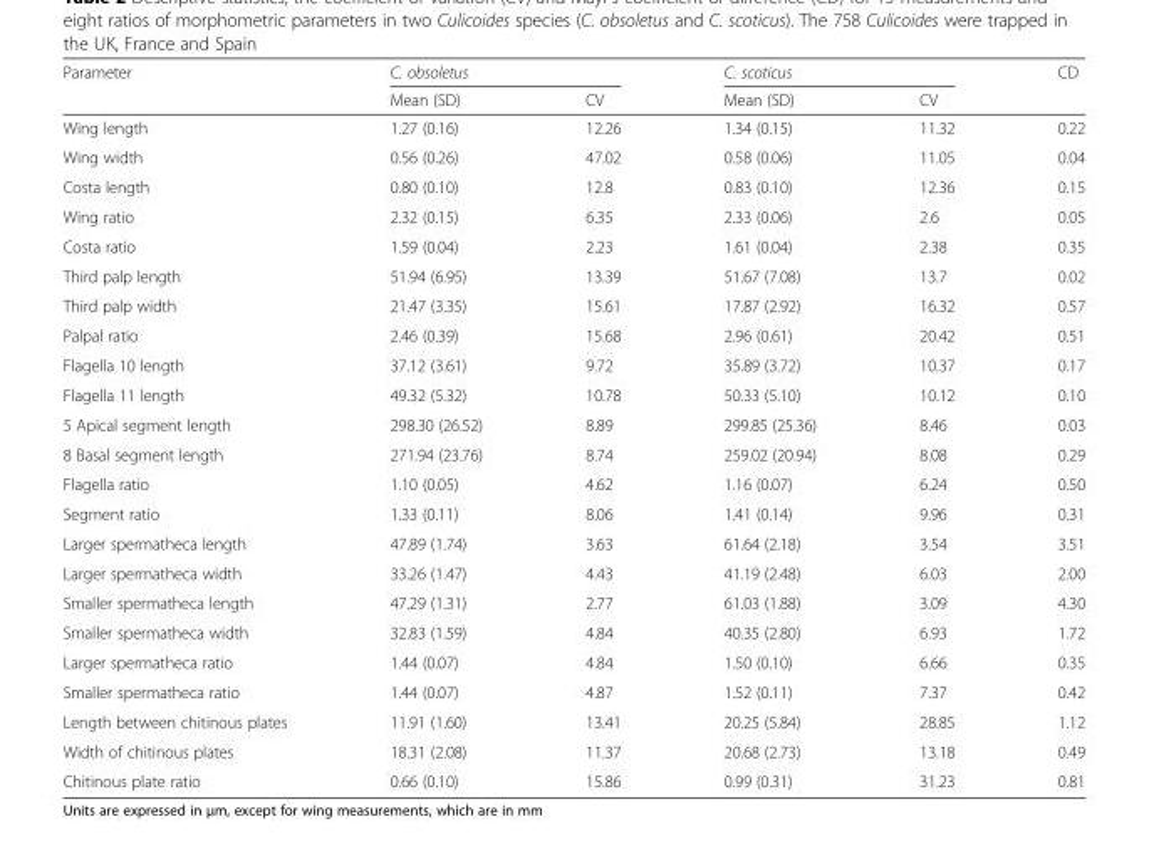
<table><thead><tr><td rowspan="2">Parameter</td><td colspan="2">C. obsoletus</td><td colspan="2">C. scoticus</td><td rowspan="2">CD</td></tr><tr><td>Mean (SD)</td><td>CV</td><td>Mean (SD)</td><td>CV</td></tr></thead><tbody><tr><td>Wing length</td><td>1.27 (0.16)</td><td>12.26</td><td>1.34 (0.15)</td><td>11.32</td><td>0.22</td></tr><tr><td>Wing width</td><td>0.56 (0.26)</td><td>47.02</td><td>0.58 (0.06)</td><td>11.05</td><td>0.04</td></tr><tr><td>Costa length</td><td>0.80 (0.10)</td><td>12.8</td><td>0.83 (0.10)</td><td>12.36</td><td>0.15</td></tr><tr><td>Wing ratio</td><td>2.32 (0.15)</td><td>6.35</td><td>2.33 (0.06)</td><td>2.6</td><td>0.05</td></tr><tr><td>Costa ratio</td><td>1.59 (0.04)</td><td>2.23</td><td>1.61 (0.04)</td><td>2.38</td><td>0.35</td></tr><tr><td>Third palp length</td><td>51.94 (6.95)</td><td>13.39</td><td>51.67 (7.08)</td><td>13.7</td><td>0.02</td></tr><tr><td>Third palp width</td><td>21.47 (3.35)</td><td>15.61</td><td>17.87 (2.92)</td><td>16.32</td><td>0.57</td></tr><tr><td>Palpal ratio</td><td>2.46 (0.39)</td><td>15.68</td><td>2.96 (0.61)</td><td>20.42</td><td>0.51</td></tr><tr><td>Flagella 10 length</td><td>37.12 (3.61)</td><td>9.72</td><td>35.89 (3.72)</td><td>10.37</td><td>0.17</td></tr><tr><td>Flagella 11 length</td><td>49.32 (5.32)</td><td>10.78</td><td>50.33 (5.10)</td><td>10.12</td><td>0.10</td></tr><tr><td>5 Apical segment length</td><td>298.30 (26.52)</td><td>8.89</td><td>299.85 (25.36)</td><td>8.46</td><td>0.03</td></tr><tr><td>8 Basal segment length</td><td>271.94 (23.76)</td><td>8.74</td><td>259.02 (20.94)</td><td>8.08</td><td>0.29</td></tr><tr><td>Flagella ratio</td><td>1.10 (0.05)</td><td>4.62</td><td>1.16 (0.07)</td><td>6.24</td><td>0.50</td></tr><tr><td>Segment ratio</td><td>1.33 (0.11)</td><td>8.06</td><td>1.41 (0.14)</td><td>9.96</td><td>0.31</td></tr><tr><td>Larger spermatheca length</td><td>47.89 (1.74)</td><td>3.63</td><td>61.64 (2.18)</td><td>3.54</td><td>3.51</td></tr><tr><td>Larger spermatheca width</td><td>33.26 (1.47)</td><td>4.43</td><td>41.19 (2.48)</td><td>6.03</td><td>2.00</td></tr><tr><td>Smaller spermatheca length</td><td>47.29 (1.31)</td><td>2.77</td><td>61.03 (1.88)</td><td>3.09</td><td>4.30</td></tr><tr><td>Smaller spermatheca width</td><td>32.83 (1.59)</td><td>4.84</td><td>40.35 (2.80)</td><td>6.93</td><td>1.72</td></tr><tr><td>Larger spermatheca ratio</td><td>1.44 (0.07)</td><td>4.84</td><td>1.50 (0.10)</td><td>6.66</td><td>0.35</td></tr><tr><td>Smaller spermatheca ratio</td><td>1.44 (0.07)</td><td>4.87</td><td>1.52 (0.11)</td><td>7.37</td><td>0.42</td></tr><tr><td>Length between chitinous plates</td><td>11.91 (1.60)</td><td>13.41</td><td>20.25 (5.84)</td><td>28.85</td><td>1.12</td></tr><tr><td>Width of chitinous plates</td><td>18.31 (2.08)</td><td>11.37</td><td>20.68 (2.73)</td><td>13.18</td><td>0.49</td></tr><tr><td>Chitinous plate ratio</td><td>0.66 (0.10)</td><td>15.86</td><td>0.99 (0.31)</td><td>31.23</td><td>0.81</td></tr></tbody></table>